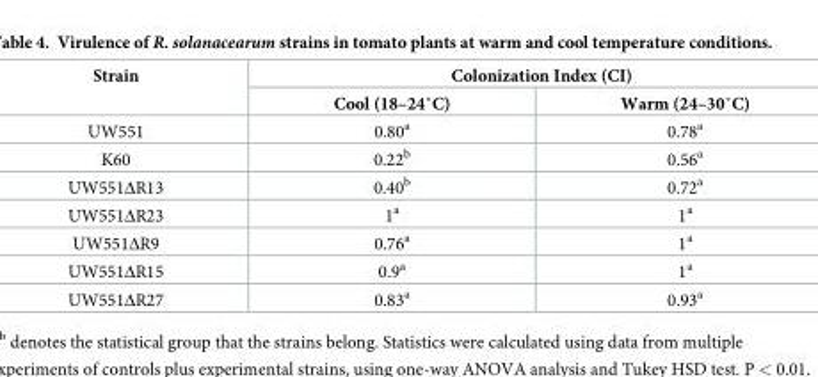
<table><thead><tr><td rowspan="2">Strain</td><td colspan="2">Colonization Index (CI)</td></tr><tr><td>Cool (18–24˚C)</td><td>Warm (24–30˚C)</td></tr></thead><tbody><tr><td>UW551</td><td>0.80<sup>a</sup></td><td>0.78<sup>a</sup></td></tr><tr><td>K60</td><td>0.22<sup>b</sup></td><td>0.56<sup>a</sup></td></tr><tr><td>UW551ΔR13</td><td>0.40<sup>b</sup></td><td>0.72<sup>a</sup></td></tr><tr><td>UW551ΔR23</td><td>1<sup>a</sup></td><td>1<sup>a</sup></td></tr><tr><td>UW551ΔR9</td><td>0.76<sup>a</sup></td><td>1<sup>a</sup></td></tr><tr><td>UW551ΔR15</td><td>0.9<sup>a</sup></td><td>1<sup>a</sup></td></tr><tr><td>UW551ΔR27</td><td>0.83<sup>a</sup></td><td>0.93<sup>a</sup></td></tr></tbody></table>